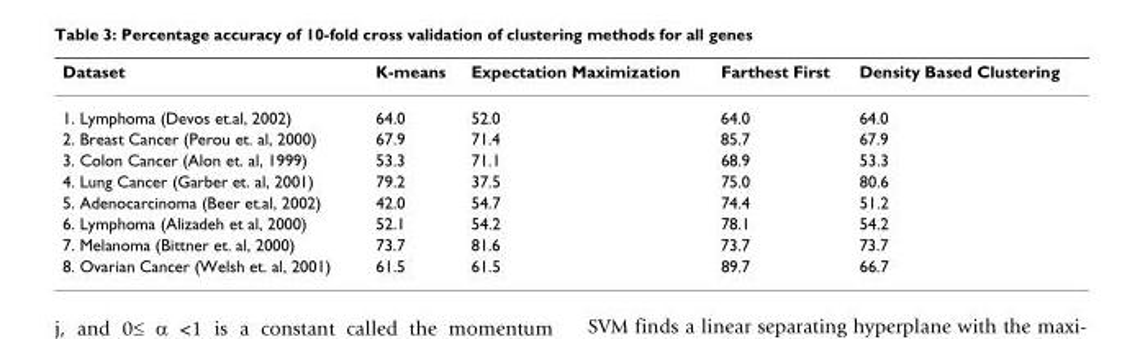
<table><thead><tr><td>Dataset</td><td>K-means</td><td>Expectation Maximization</td><td>Farthest First</td><td>Density Based Clustering</td></tr></thead><tbody><tr><td>1. Lymphoma (Devos et.al, 2002)</td><td>64.0</td><td>52.0</td><td>64.0</td><td>64.0</td></tr><tr><td>2. Breast Cancer (Perou et. al, 2000)</td><td>67.9</td><td>71.4</td><td>85.7</td><td>67.9</td></tr><tr><td>3. Colon Cancer (Alon et. al, 1999)</td><td>53.3</td><td>71.1</td><td>68.9</td><td>53.3</td></tr><tr><td>4. Lung Cancer (Garber et. al, 2001)</td><td>79.2</td><td>37.5</td><td>75.0</td><td>80.6</td></tr><tr><td>5. Adenocarcinoma (Beer et.al, 2002)</td><td>42.0</td><td>54.7</td><td>74.4</td><td>51.2</td></tr><tr><td>6. Lymphoma (Alizadeh et al, 2000)</td><td>52.1</td><td>54.2</td><td>78.1</td><td>54.2</td></tr><tr><td>7. Melanoma (Bittner et. al, 2000)</td><td>73.7</td><td>81.6</td><td>73.7</td><td>73.7</td></tr><tr><td>8. Ovarian Cancer (Welsh et. al, 2001)</td><td>61.5</td><td>61.5</td><td>89.7</td><td>66.7</td></tr></tbody></table>